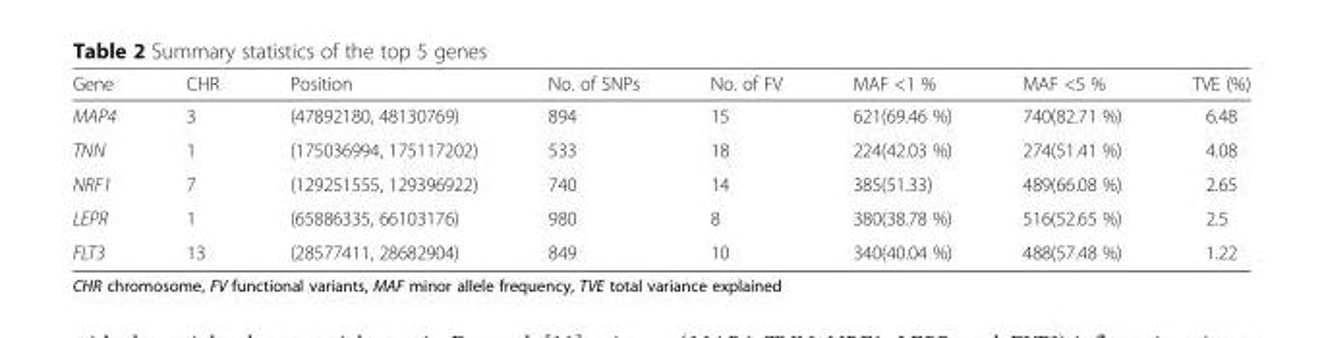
<table><thead><tr><td>Gene</td><td>CHR</td><td>Position</td><td>No. of SNPs</td><td>No. of FV</td><td>MAF &lt;1 %</td><td>MAF &lt;5 %</td><td>TVE (%)</td></tr></thead><tbody><tr><td>MAP4</td><td>3</td><td>(47892180, 48130769)</td><td>894</td><td>15</td><td>621(69.46 %)</td><td>740(82.71 %)</td><td>6.48</td></tr><tr><td>TNN</td><td>1</td><td>(175036994, 175117202)</td><td>533</td><td>18</td><td>224(42.03 %)</td><td>274(51.41 %)</td><td>4.08</td></tr><tr><td>NRF1</td><td>7</td><td>(129251555, 129396922)</td><td>740</td><td>14</td><td>385(51.33)</td><td>489(66.08 %)</td><td>2.65</td></tr><tr><td>LEPR</td><td>1</td><td>(65886335, 66103176)</td><td>980</td><td>8</td><td>380(38.78 %)</td><td>516(52.65 %)</td><td>2.5</td></tr><tr><td>FLT3</td><td>13</td><td>(28577411, 28682904)</td><td>849</td><td>10</td><td>340(40.04 %)</td><td>488(57.48 %)</td><td>1.22</td></tr></tbody></table>